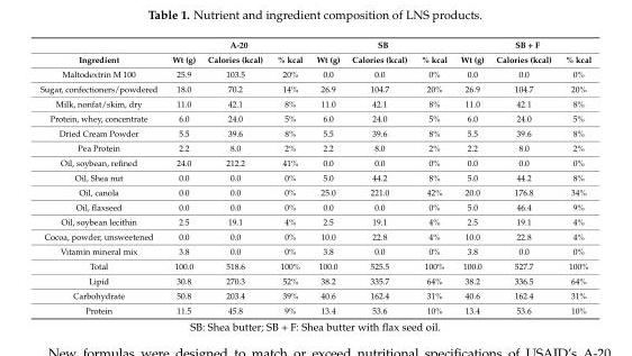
<table><thead><tr><td rowspan="2">Ingredient</td><td colspan="3">A-20</td><td colspan="3">SB</td><td colspan="3">SB + F</td></tr><tr><td>Wt (g)</td><td>Calories (kcal)</td><td>% kcal</td><td>Wt (g)</td><td>Calories (kcal)</td><td>% kcal</td><td>Wt (g)</td><td>Calories (kcal)</td><td>% kcal</td></tr></thead><tbody><tr><td>Maltodextrin M 100</td><td>25.9</td><td>103.5</td><td>20%</td><td>0.0</td><td>0.0</td><td>0%</td><td>0.0</td><td>0.0</td><td>0%</td></tr><tr><td>Sugar, confectioners/powdered</td><td>18.0</td><td>70.2</td><td>14%</td><td>26.9</td><td>104.7</td><td>20%</td><td>26.9</td><td>104.7</td><td>20%</td></tr><tr><td>Milk, nonfat/skim, dry</td><td>11.0</td><td>42.1</td><td>8%</td><td>11.0</td><td>42.1</td><td>8%</td><td>11.0</td><td>42.1</td><td>8%</td></tr><tr><td>Protein, whey, concentrate</td><td>6.0</td><td>24.0</td><td>5%</td><td>6.0</td><td>24.0</td><td>5%</td><td>6.0</td><td>24.0</td><td>5%</td></tr><tr><td>Dried Cream Powder</td><td>5.5</td><td>39.6</td><td>8%</td><td>5.5</td><td>39.6</td><td>8%</td><td>5.5</td><td>39.6</td><td>8%</td></tr><tr><td>Pea Protein</td><td>2.2</td><td>8.0</td><td>2%</td><td>2.2</td><td>8.0</td><td>2%</td><td>2.2</td><td>8.0</td><td>2%</td></tr><tr><td>Oil, soybean, refined</td><td>24.0</td><td>212.2</td><td>41%</td><td>0.0</td><td>0.0</td><td>0%</td><td>0.0</td><td>0.0</td><td>0%</td></tr><tr><td>Oil, Shea nut</td><td>0.0</td><td>0.0</td><td>0%</td><td>5.0</td><td>44.2</td><td>8%</td><td>5.0</td><td>44.2</td><td>8%</td></tr><tr><td>Oil, canola</td><td>0.0</td><td>0.0</td><td>0%</td><td>25.0</td><td>221.0</td><td>42%</td><td>20.0</td><td>176.8</td><td>34%</td></tr><tr><td>Oil, flaxseed</td><td>0.0</td><td>0.0</td><td>0%</td><td>0.0</td><td>0.0</td><td>0%</td><td>5.0</td><td>46.4</td><td>9%</td></tr><tr><td>Oil, soybean lecithin</td><td>2.5</td><td>19.1</td><td>4%</td><td>2.5</td><td>19.1</td><td>4%</td><td>2.5</td><td>19.1</td><td>4%</td></tr><tr><td>Cocoa, powder, unsweetened</td><td>0.0</td><td>0.0</td><td>0%</td><td>10.0</td><td>22.8</td><td>4%</td><td>10.0</td><td>22.8</td><td>4%</td></tr><tr><td>Vitamin mineral mix</td><td>3.8</td><td>0.0</td><td>0%</td><td>3.8</td><td>0.0</td><td>0%</td><td>3.8</td><td>0.0</td><td>0%</td></tr><tr><td>Total</td><td>100.0</td><td>518.6</td><td>100%</td><td>100.0</td><td>525.5</td><td>100%</td><td>100.0</td><td>527.7</td><td>100%</td></tr><tr><td>Lipid</td><td>30.8</td><td>270.3</td><td>52%</td><td>38.2</td><td>335.7</td><td>64%</td><td>38.2</td><td>336.5</td><td>64%</td></tr><tr><td>Carbohydrate</td><td>50.8</td><td>203.4</td><td>39%</td><td>40.6</td><td>162.4</td><td>31%</td><td>40.6</td><td>162.4</td><td>31%</td></tr><tr><td>Protein</td><td>11.5</td><td>45.8</td><td>9%</td><td>13.4</td><td>53.6</td><td>10%</td><td>13.4</td><td>53.6</td><td>10%</td></tr></tbody></table>